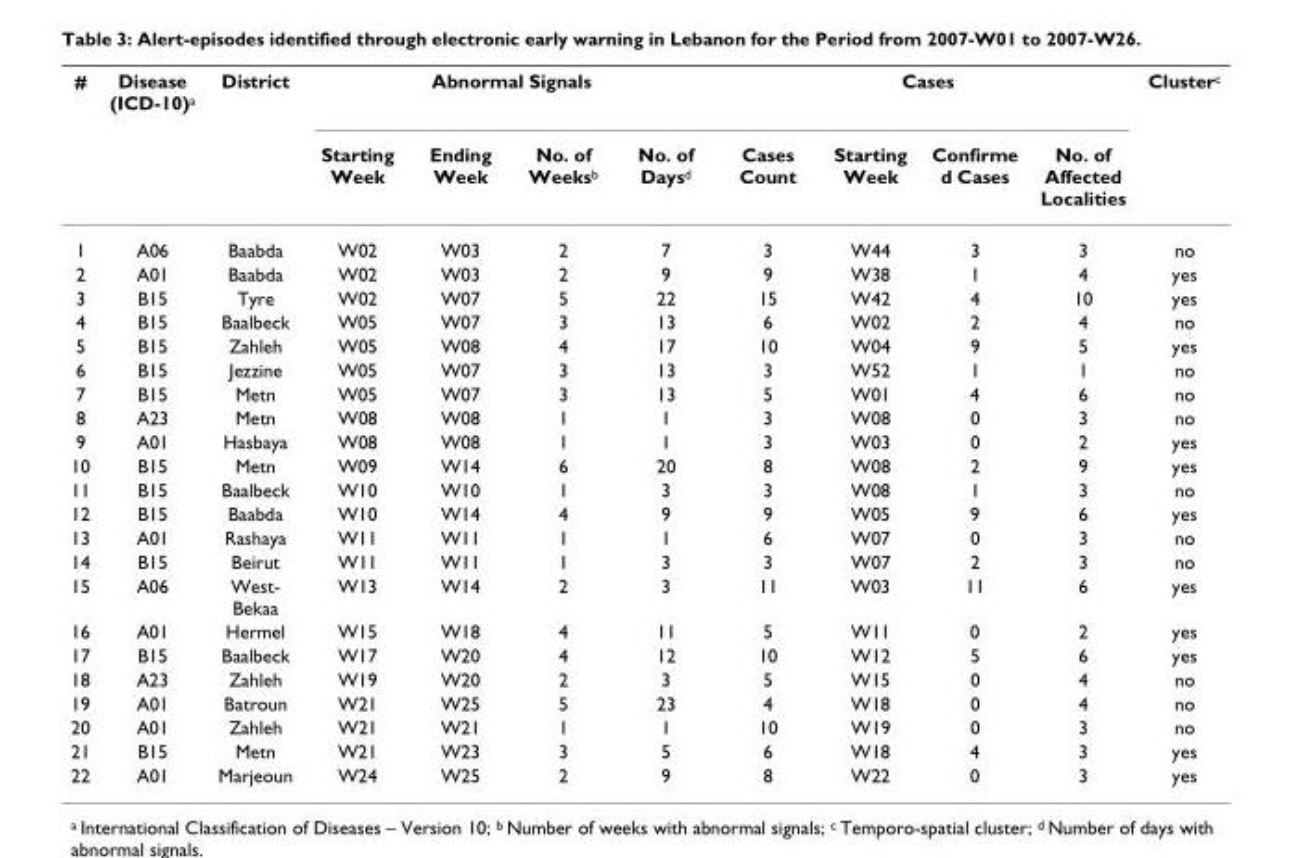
<table><thead><tr><td rowspan="2">#</td><td rowspan="2">Disease (ICD-10)<sup>a</sup></td><td rowspan="2">District</td><td colspan="4">Abnormal Signals</td><td colspan="4">Cases</td><td rowspan="2">Cluster<sup>c</sup></td></tr><tr><td>Starting Week</td><td>Ending Week</td><td>No. of Weeks<sup>b</sup></td><td>No. of Days<sup>d</sup></td><td>Cases Count</td><td>Starting Week</td><td>Confirme d Cases</td><td>No. of Affected Localities</td></tr></thead><tbody><tr><td>1</td><td>A06</td><td>Baabda</td><td>W02</td><td>W03</td><td>2</td><td>7</td><td>3</td><td>W44</td><td>3</td><td>3</td><td>no</td></tr><tr><td>2</td><td>A01</td><td>Baabda</td><td>W02</td><td>W03</td><td>2</td><td>9</td><td>9</td><td>W38</td><td>1</td><td>4</td><td>yes</td></tr><tr><td>3</td><td>B15</td><td>Tyre</td><td>W02</td><td>W07</td><td>5</td><td>22</td><td>15</td><td>W42</td><td>4</td><td>10</td><td>yes</td></tr><tr><td>4</td><td>B15</td><td>Baalbeck</td><td>W05</td><td>W07</td><td>3</td><td>13</td><td>6</td><td>W02</td><td>2</td><td>4</td><td>no</td></tr><tr><td>5</td><td>B15</td><td>Zahleh</td><td>W05</td><td>W08</td><td>4</td><td>17</td><td>10</td><td>W04</td><td>9</td><td>5</td><td>yes</td></tr><tr><td>6</td><td>B15</td><td>Jezzine</td><td>W05</td><td>W07</td><td>3</td><td>13</td><td>3</td><td>W52</td><td>1</td><td>1</td><td>no</td></tr><tr><td>7</td><td>B15</td><td>Metn</td><td>W05</td><td>W07</td><td>3</td><td>13</td><td>5</td><td>W01</td><td>4</td><td>6</td><td>no</td></tr><tr><td>8</td><td>A23</td><td>Metn</td><td>W08</td><td>W08</td><td>1</td><td>1</td><td>3</td><td>W08</td><td>0</td><td>3</td><td>no</td></tr><tr><td>9</td><td>A01</td><td>Hasbaya</td><td>W08</td><td>W08</td><td>1</td><td>1</td><td>3</td><td>W03</td><td>0</td><td>2</td><td>yes</td></tr><tr><td>10</td><td>B15</td><td>Metn</td><td>W09</td><td>W14</td><td>6</td><td>20</td><td>8</td><td>W08</td><td>2</td><td>9</td><td>yes</td></tr><tr><td>11</td><td>B15</td><td>Baalbeck</td><td>W10</td><td>W10</td><td>1</td><td>3</td><td>3</td><td>W08</td><td>1</td><td>3</td><td>no</td></tr><tr><td>12</td><td>B15</td><td>Baabda</td><td>W10</td><td>W14</td><td>4</td><td>9</td><td>9</td><td>W05</td><td>9</td><td>6</td><td>yes</td></tr><tr><td>13</td><td>A01</td><td>Rashaya</td><td>W11</td><td>W11</td><td>1</td><td>1</td><td>6</td><td>W07</td><td>0</td><td>3</td><td>no</td></tr><tr><td>14</td><td>B15</td><td>Beirut</td><td>W11</td><td>W11</td><td>1</td><td>3</td><td>3</td><td>W07</td><td>2</td><td>3</td><td>no</td></tr><tr><td>15</td><td>A06</td><td>West- Bekaa</td><td>W13</td><td>W14</td><td>2</td><td>3</td><td>11</td><td>W03</td><td>11</td><td>6</td><td>yes</td></tr><tr><td>16</td><td>A01</td><td>Hermel</td><td>W15</td><td>W18</td><td>4</td><td>11</td><td>5</td><td>W11</td><td>0</td><td>2</td><td>yes</td></tr><tr><td>17</td><td>B15</td><td>Baalbeck</td><td>W17</td><td>W20</td><td>4</td><td>12</td><td>10</td><td>W12</td><td>5</td><td>6</td><td>yes</td></tr><tr><td>18</td><td>A23</td><td>Zahleh</td><td>W19</td><td>W20</td><td>2</td><td>3</td><td>5</td><td>W15</td><td>0</td><td>4</td><td>no</td></tr><tr><td>19</td><td>A01</td><td>Batroun</td><td>W21</td><td>W25</td><td>5</td><td>23</td><td>4</td><td>W18</td><td>0</td><td>4</td><td>no</td></tr><tr><td>20</td><td>A01</td><td>Zahleh</td><td>W21</td><td>W21</td><td>1</td><td>1</td><td>10</td><td>W19</td><td>0</td><td>3</td><td>no</td></tr><tr><td>21</td><td>B15</td><td>Metn</td><td>W21</td><td>W23</td><td>3</td><td>5</td><td>6</td><td>W18</td><td>4</td><td>3</td><td>yes</td></tr><tr><td>22</td><td>A01</td><td>Marjeoun</td><td>W24</td><td>W25</td><td>2</td><td>9</td><td>8</td><td>W22</td><td>0</td><td>3</td><td>yes</td></tr></tbody></table>